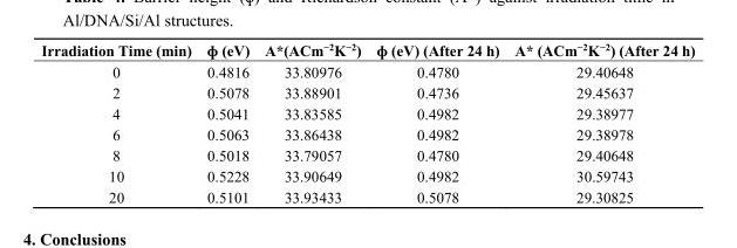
<table><thead><tr><td>Irradiation Time (min)</td><td>ɸ (eV)</td><td>A*(ACm<sup>−2</sup>K<sup>−2</sup>)</td><td>ɸ (eV) (After 24 h)</td><td>A* (ACm<sup>−2</sup>K<sup>−2</sup>) (After 24 h)</td></tr></thead><tbody><tr><td>0</td><td>0.4816</td><td>33.80976</td><td>0.4780</td><td>29.40648</td></tr><tr><td>2</td><td>0.5078</td><td>33.88901</td><td>0.4736</td><td>29.45637</td></tr><tr><td>4</td><td>0.5041</td><td>33.83585</td><td>0.4982</td><td>29.38977</td></tr><tr><td>6</td><td>0.5063</td><td>33.86438</td><td>0.4982</td><td>29.38978</td></tr><tr><td>8</td><td>0.5018</td><td>33.79057</td><td>0.4780</td><td>29.40648</td></tr><tr><td>10</td><td>0.5228</td><td>33.90649</td><td>0.4982</td><td>30.59743</td></tr><tr><td>20</td><td>0.5101</td><td>33.93433</td><td>0.5078</td><td>29.30825</td></tr></tbody></table>